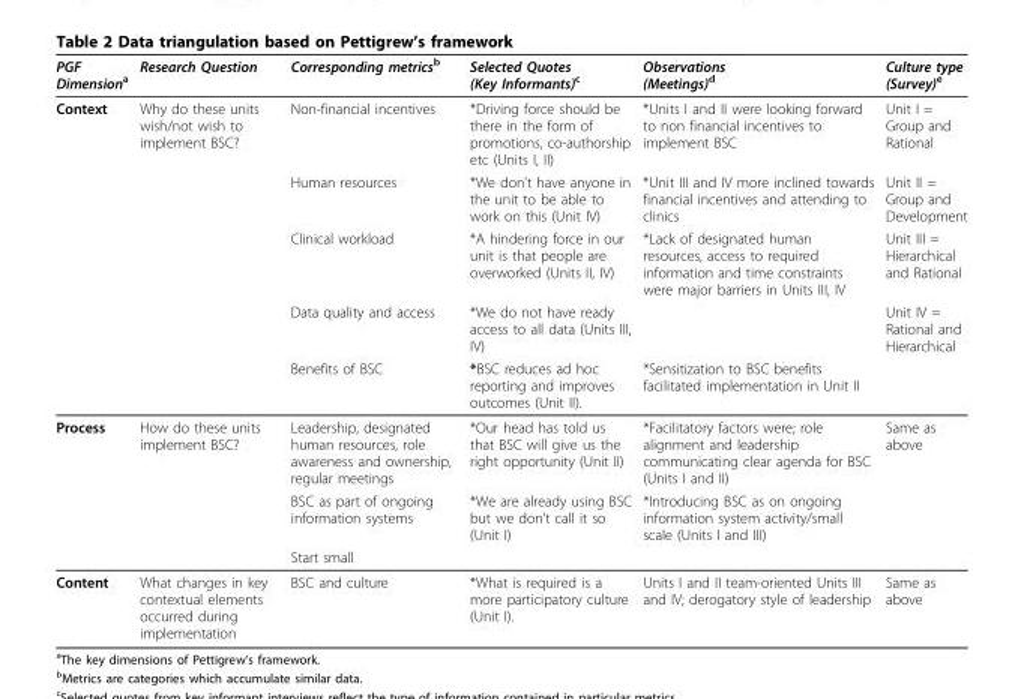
<table><thead><tr><td>PGF Dimension<sup>a</sup></td><td>Research Question</td><td>Corresponding metrics<sup>b</sup></td><td>Selected Quotes (Key Informants)<sup>c</sup></td><td>Observations (Meetings)<sup>d</sup></td><td>Culture type (Survey)<sup>e</sup></td></tr></thead><tbody><tr><td rowspan="5">Context</td><td>Why do these units wish/not wish to implement BSC?</td><td>Non-financial incentives</td><td>*Driving force should be there in the form of promotions, co-authorship etc (Units I, II)</td><td>*Units I and II were looking forward to non financial incentives to implement BSC</td><td>Unit I = Group and Rational</td></tr><tr><td></td><td>Human resources</td><td>*We don’t have anyone in the unit to be able to work on this (Unit IV)</td><td>*Unit III and IV more inclined towards financial incentives and attending to clinics</td><td>Unit II = Group and Development</td></tr><tr><td></td><td>Clinical workload</td><td>*A hindering force in our unit is that people are overworked (Units II, IV)</td><td>*Lack of designated human resources, access to required information and time constraints were major barriers in Units III, IV</td><td>Unit III = Hierarchical and Rational</td></tr><tr><td></td><td>Data quality and access</td><td>*We do not have ready access to all data (Units III, IV)</td><td></td><td>Unit IV = Rational and Hierarchical</td></tr><tr><td></td><td>Benefits of BSC</td><td>*BSC reduces ad hoc reporting and improves outcomes (Unit II).</td><td>*Sensitization to BSC benefits facilitated implementation in Unit II</td><td></td></tr><tr><td rowspan="3">Process</td><td>How do these units implement BSC?</td><td>Leadership, designated human resources, role awareness and ownership, regular meetings</td><td>*Our head has told us that BSC will give us the right opportunity (Unit II)</td><td>*Facilitatory factors were; role alignment and leadership communicating clear agenda for BSC (Units I and II)</td><td>Same as above</td></tr><tr><td></td><td>BSC as part of ongoing information systems</td><td>*We are already using BSC but we don’t call it so (Unit I)</td><td>*Introducing BSC as on ongoing information system activity/small scale (Units I and III)</td><td></td></tr><tr><td></td><td>Start small</td><td></td><td></td><td></td></tr><tr><td>Content</td><td>What changes in key contextual elements occurred during implementation</td><td>BSC and culture</td><td>*What is required is a more participatory culture (Unit I).</td><td>Units I and II team-oriented Units III and IV; derogatory style of leadership</td><td>Same as above</td></tr></tbody></table>